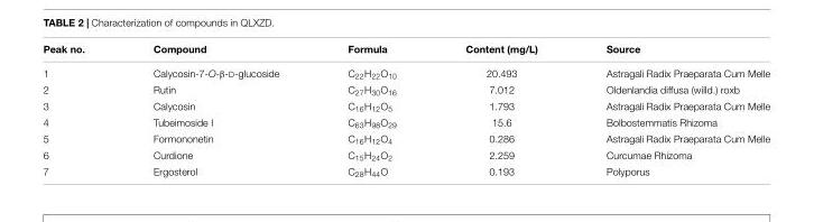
<table><thead><tr><td>Peak no.</td><td>Compound</td><td>Formula</td><td>Content (mg/L)</td><td>Source</td></tr></thead><tbody><tr><td>1</td><td>Calycosin-7-O-β-D-glucoside</td><td>C<sub>22</sub>H<sub>22</sub>O<sub>10</sub></td><td>20.493</td><td>Astragali Radix Praeparata Cum Melle</td></tr><tr><td>2</td><td>Rutin</td><td>C<sub>27</sub>H<sub>30</sub>O<sub>16</sub></td><td>7.012</td><td>Oldenlandia diffusa (willd.) roxb</td></tr><tr><td>3</td><td>Calycosin</td><td>C<sub>16</sub>H<sub>12</sub>O<sub>5</sub></td><td>1.793</td><td>Astragali Radix Praeparata Cum Melle</td></tr><tr><td>4</td><td>Tubeimoside I</td><td>C<sub>63</sub>H<sub>98</sub>O<sub>29</sub></td><td>15.6</td><td>Bolbostemmatis Rhizoma</td></tr><tr><td>5</td><td>Formononetin</td><td>C<sub>16</sub>H<sub>12</sub>O<sub>4</sub></td><td>0.286</td><td>Astragali Radix Praeparata Cum Melle</td></tr><tr><td>6</td><td>Curdione</td><td>C<sub>15</sub>H<sub>24</sub>O<sub>2</sub></td><td>2.259</td><td>Curcumae Rhizoma</td></tr><tr><td>7</td><td>Ergosterol</td><td>C<sub>28</sub>H<sub>44</sub>O</td><td>0.193</td><td>Polyporus</td></tr></tbody></table>